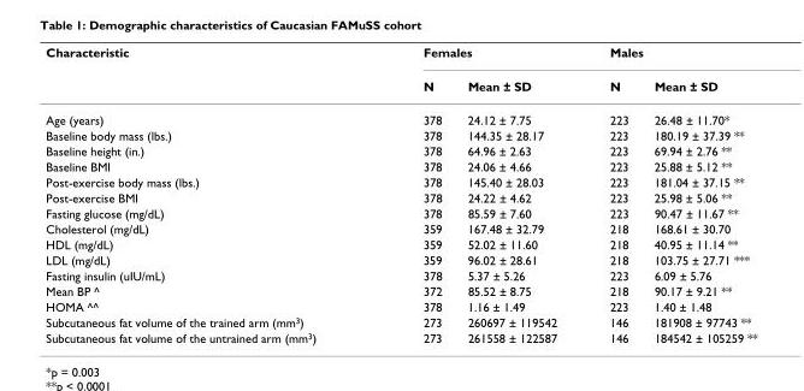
<table><thead><tr><td rowspan="2">Characteristic</td><td colspan="2">Females</td><td colspan="2">Males</td></tr><tr><td>N</td><td>Mean ± SD</td><td>N</td><td>Mean ± SD</td></tr></thead><tbody><tr><td>Age (years)</td><td>378</td><td>24.12 ± 7.75</td><td>223</td><td>26.48 ± 11.70*</td></tr><tr><td>Baseline body mass (lbs.)</td><td>378</td><td>144.35 ± 28.17</td><td>223</td><td>180.19 ± 37.39 **</td></tr><tr><td>Baseline height (in.)</td><td>378</td><td>64.96 ± 2.63</td><td>223</td><td>69.94 ± 2.76 **</td></tr><tr><td>Baseline BMI</td><td>378</td><td>24.06 ± 4.66</td><td>223</td><td>25.88 ± 5.12 **</td></tr><tr><td>Post-exercise body mass (lbs.)</td><td>378</td><td>145.40 ± 28.03</td><td>223</td><td>181.04 ± 37.15 **</td></tr><tr><td>Post-exercise BMI</td><td>378</td><td>24.22 ± 4.62</td><td>223</td><td>25.98 ± 5.06 **</td></tr><tr><td>Fasting glucose (mg/dL)</td><td>378</td><td>85.59 ± 7.60</td><td>223</td><td>90.47 ± 11.67 **</td></tr><tr><td>Cholesterol (mg/dL)</td><td>359</td><td>167.48 ± 32.79</td><td>218</td><td>168.61 ± 30.70</td></tr><tr><td>HDL (mg/dL)</td><td>359</td><td>52.02 ± 11.60</td><td>218</td><td>40.95 ± 11.14 **</td></tr><tr><td>LDL (mg/dL)</td><td>359</td><td>96.02 ± 28.61</td><td>218</td><td>103.75 ± 27.71 ***</td></tr><tr><td>Fasting insulin (uIU/mL)</td><td>378</td><td>5.37 ± 5.26</td><td>223</td><td>6.09 ± 5.76</td></tr><tr><td>Mean BP ^</td><td>372</td><td>85.52 ± 8.75</td><td>218</td><td>90.17 ± 9.21 **</td></tr><tr><td>HOMA ^^</td><td>378</td><td>1.16 ± 1.49</td><td>223</td><td>1.40 ± 1.48</td></tr><tr><td>Subcutaneous fat volume of the trained arm (mm<sup>3</sup>)</td><td>273</td><td>260697 ± 119542</td><td>146</td><td>181908 ± 97743 **</td></tr><tr><td>Subcutaneous fat volume of the untrained arm (mm<sup>3</sup>)</td><td>273</td><td>261558 ± 122587</td><td>146</td><td>184542 ± 105259 **</td></tr></tbody></table>